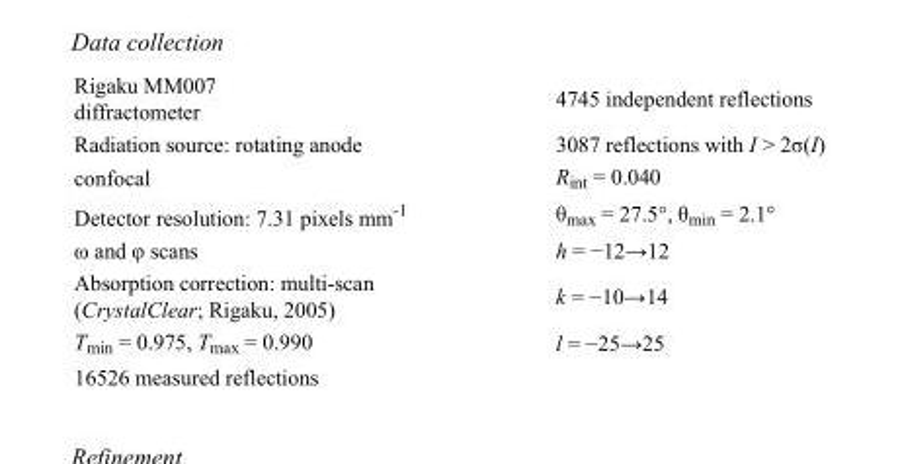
<table><tbody><tr><td>Rigaku MM007 diffractometer</td><td>4745 independent reflections</td></tr><tr><td>Radiation source: rotating anode</td><td>3087 reflections with I &gt; 2σ(I)</td></tr><tr><td>confocal</td><td>R<sub>int</sub> = 0.040</td></tr><tr><td>Detector resolution: 7.31 pixels mm<sup>-1</sup></td><td>θ<sub>max</sub> = 27.5°, θ<sub>min</sub> = 2.1°</td></tr><tr><td>ω and φ scans</td><td>h = −12→12</td></tr><tr><td>Absorption correction: multi-scan (CrystalClear; Rigaku, 2005)</td><td>k = −10→14</td></tr><tr><td>T<sub>min</sub> = 0.975, T<sub>max</sub> = 0.990</td><td>l = −25→25</td></tr><tr><td>16526 measured reflections</td><td></td></tr></tbody></table>